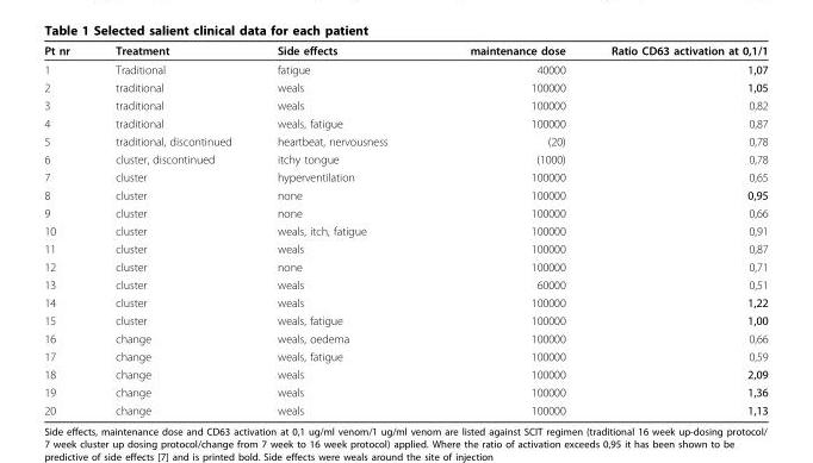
<table><thead><tr><td>Pt nr</td><td>Treatment</td><td>Side effects</td><td>maintenance dose</td><td>Ratio CD63 activation at 0,1/1</td></tr></thead><tbody><tr><td>1</td><td>Traditional</td><td>fatigue</td><td>40000</td><td>1,07</td></tr><tr><td>2</td><td>traditional</td><td>weals</td><td>100000</td><td>1,05</td></tr><tr><td>3</td><td>traditional</td><td>weals</td><td>100000</td><td>0,82</td></tr><tr><td>4</td><td>traditional</td><td>weals, fatigue</td><td>100000</td><td>0,87</td></tr><tr><td>5</td><td>traditional, discontinued</td><td>heartbeat, nervousness</td><td>(20)</td><td>0,78</td></tr><tr><td>6</td><td>cluster, discontinued</td><td>itchy tongue</td><td>(1000)</td><td>0,78</td></tr><tr><td>7</td><td>cluster</td><td>hyperventilation</td><td>100000</td><td>0,65</td></tr><tr><td>8</td><td>cluster</td><td>none</td><td>100000</td><td>0,95</td></tr><tr><td>9</td><td>cluster</td><td>none</td><td>100000</td><td>0,66</td></tr><tr><td>10</td><td>cluster</td><td>weals, itch, fatigue</td><td>100000</td><td>0,91</td></tr><tr><td>11</td><td>cluster</td><td>weals</td><td>100000</td><td>0,87</td></tr><tr><td>12</td><td>cluster</td><td>none</td><td>100000</td><td>0,71</td></tr><tr><td>13</td><td>cluster</td><td>weals</td><td>60000</td><td>0,51</td></tr><tr><td>14</td><td>cluster</td><td>weals</td><td>100000</td><td>1,22</td></tr><tr><td>15</td><td>cluster</td><td>weals, fatigue</td><td>100000</td><td>1,00</td></tr><tr><td>16</td><td>change</td><td>weals, oedema</td><td>100000</td><td>0,66</td></tr><tr><td>17</td><td>change</td><td>weals, fatigue</td><td>100000</td><td>0,59</td></tr><tr><td>18</td><td>change</td><td>weals</td><td>100000</td><td>2,09</td></tr><tr><td>19</td><td>change</td><td>weals</td><td>100000</td><td>1,36</td></tr><tr><td>20</td><td>change</td><td>weals</td><td>100000</td><td>1,13</td></tr></tbody></table>